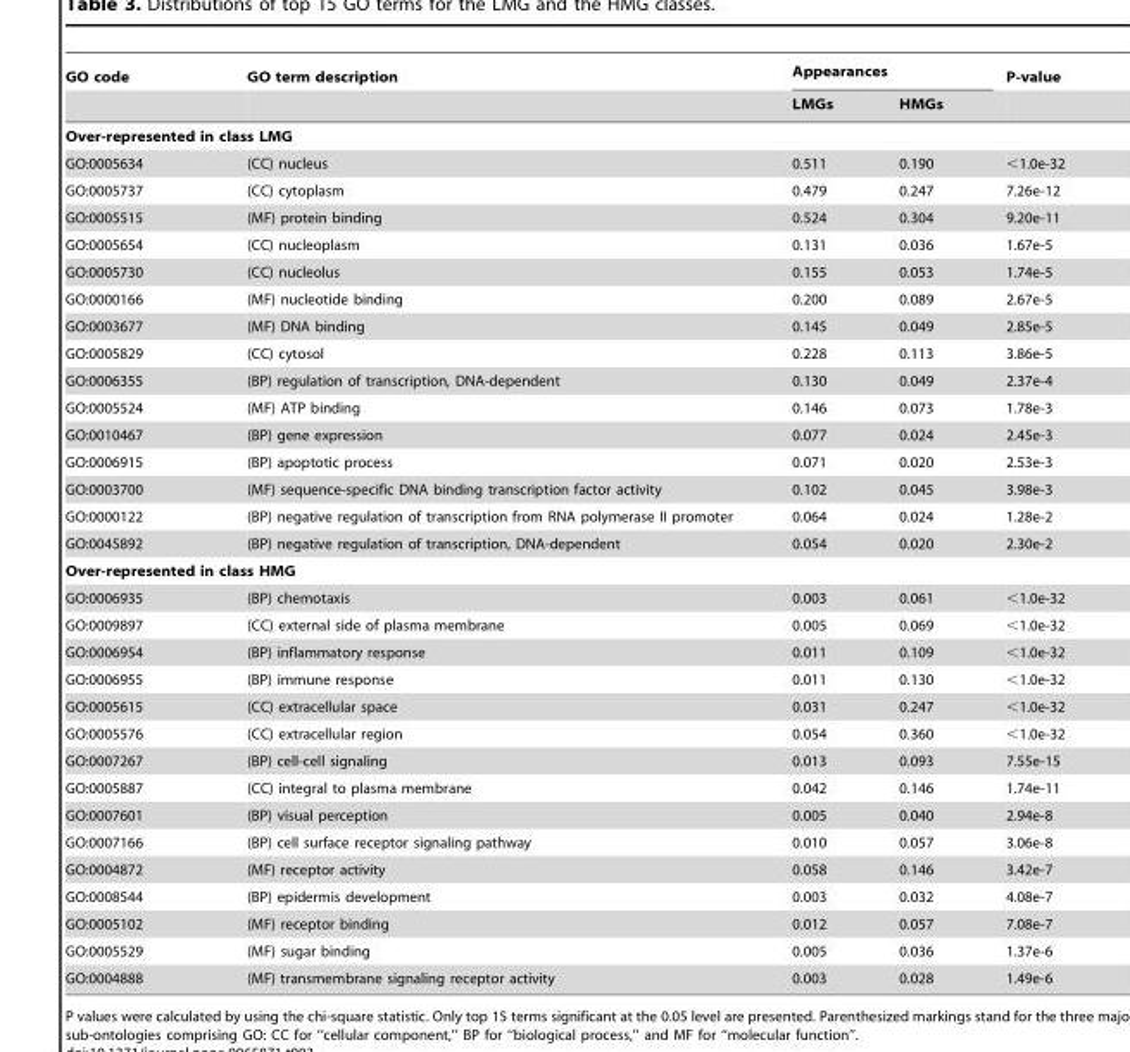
<table><thead><tr><td rowspan="2">GO code</td><td rowspan="2">GO term description</td><td colspan="2">Appearances</td><td rowspan="2">P-value</td></tr><tr><td>LMGs</td><td>HMGs</td></tr></thead><tbody><tr><td colspan="5">Over-represented in class LMG</td></tr><tr><td>GO:0005634</td><td>(CC) nucleus</td><td>0.511</td><td>0.190</td><td>&lt;1.0e-32</td></tr><tr><td>GO:0005737</td><td>(CC) cytoplasm</td><td>0.479</td><td>0.247</td><td>7.26e-12</td></tr><tr><td>GO:0005515</td><td>(MF) protein binding</td><td>0.524</td><td>0.304</td><td>9.20e-11</td></tr><tr><td>GO:0005654</td><td>(CC) nucleoplasm</td><td>0.131</td><td>0.036</td><td>1.67e-5</td></tr><tr><td>GO:0005730</td><td>(CC) nucleolus</td><td>0.155</td><td>0.053</td><td>1.74e-5</td></tr><tr><td>GO:0000166</td><td>(MF) nucleotide binding</td><td>0.200</td><td>0.089</td><td>2.67e-5</td></tr><tr><td>GO:0003677</td><td>(MF) DNA binding</td><td>0.145</td><td>0.049</td><td>2.85e-5</td></tr><tr><td>GO:0005829</td><td>(CC) cytosol</td><td>0.228</td><td>0.113</td><td>3.86e-5</td></tr><tr><td>GO:0006355</td><td>(BP) regulation of transcription, DNA-dependent</td><td>0.130</td><td>0.049</td><td>2.37e-4</td></tr><tr><td>GO:0005524</td><td>(MF) ATP binding</td><td>0.146</td><td>0.073</td><td>1.78e-3</td></tr><tr><td>GO:0010467</td><td>(BP) gene expression</td><td>0.077</td><td>0.024</td><td>2.45e-3</td></tr><tr><td>GO:0006915</td><td>(BP) apoptotic process</td><td>0.071</td><td>0.020</td><td>2.53e-3</td></tr><tr><td>GO:0003700</td><td>(MF) sequence-specific DNA binding transcription factor activity</td><td>0.102</td><td>0.045</td><td>3.98e-3</td></tr><tr><td>GO:0000122</td><td>(BP) negative regulation of transcription from RNA polymerase II promoter</td><td>0.064</td><td>0.024</td><td>1.28e-2</td></tr><tr><td>GO:0045892</td><td>(BP) negative regulation of transcription, DNA-dependent</td><td>0.054</td><td>0.020</td><td>2.30e-2</td></tr><tr><td colspan="5">Over-represented in class HMG</td></tr><tr><td>GO:0006935</td><td>(BP) chemotaxis</td><td>0.003</td><td>0.061</td><td>&lt;1.0e-32</td></tr><tr><td>GO:0009897</td><td>(CC) external side of plasma membrane</td><td>0.005</td><td>0.069</td><td>&lt;1.0e-32</td></tr><tr><td>GO:0006954</td><td>(BP) inflammatory response</td><td>0.011</td><td>0.109</td><td>&lt;1.0e-32</td></tr><tr><td>GO:0006955</td><td>(BP) immune response</td><td>0.011</td><td>0.130</td><td>&lt;1.0e-32</td></tr><tr><td>GO:0005615</td><td>(CC) extracellular space</td><td>0.031</td><td>0.247</td><td>&lt;1.0e-32</td></tr><tr><td>GO:0005576</td><td>(CC) extracellular region</td><td>0.054</td><td>0.360</td><td>&lt;1.0e-32</td></tr><tr><td>GO:0007267</td><td>(BP) cell-cell signaling</td><td>0.013</td><td>0.093</td><td>7.55e-15</td></tr><tr><td>GO:0005887</td><td>(CC) integral to plasma membrane</td><td>0.042</td><td>0.146</td><td>1.74e-11</td></tr><tr><td>GO:0007601</td><td>(BP) visual perception</td><td>0.005</td><td>0.040</td><td>2.94e-8</td></tr><tr><td>GO:0007166</td><td>(BP) cell surface receptor signaling pathway</td><td>0.010</td><td>0.057</td><td>3.06e-8</td></tr><tr><td>GO:0004872</td><td>(MF) receptor activity</td><td>0.058</td><td>0.146</td><td>3.42e-7</td></tr><tr><td>GO:0008544</td><td>(BP) epidermis development</td><td>0.003</td><td>0.032</td><td>4.08e-7</td></tr><tr><td>GO:0005102</td><td>(MF) receptor binding</td><td>0.012</td><td>0.057</td><td>7.08e-7</td></tr><tr><td>GO:0005529</td><td>(MF) sugar binding</td><td>0.005</td><td>0.036</td><td>1.37e-6</td></tr><tr><td>GO:0004888</td><td>(MF) transmembrane signaling receptor activity</td><td>0.003</td><td>0.028</td><td>1.49e-6</td></tr></tbody></table>